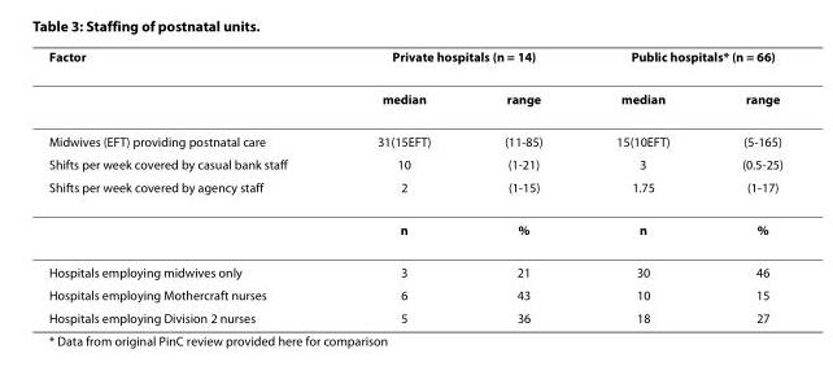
<table><thead><tr><td rowspan="2">Factor</td><td colspan="2">Private hospitals (n = 14)</td><td colspan="2">Public hospitals* (n = 66)</td></tr><tr><td>median</td><td>range</td><td>median</td><td>range</td></tr></thead><tbody><tr><td>Midwives (EFT) providing postnatal care</td><td>31(15EFT)</td><td>(11-85)</td><td>15(10EFT)</td><td>(5-165)</td></tr><tr><td>Shifts per week covered by casual bank staff</td><td>10</td><td>(1-21)</td><td>3</td><td>(0.5-25)</td></tr><tr><td rowspan="2">Shifts per week covered by agency staff</td><td>2</td><td>(1-15)</td><td>1.75</td><td>(1-17)</td></tr><tr><td>n</td><td>%</td><td>n</td><td>%</td></tr><tr><td>Hospitals employing midwives only</td><td>3</td><td>21</td><td>30</td><td>46</td></tr><tr><td>Hospitals employing Mothercraft nurses</td><td>6</td><td>43</td><td>10</td><td>15</td></tr><tr><td>Hospitals employing Division 2 nurses</td><td>5</td><td>36</td><td>18</td><td>27</td></tr></tbody></table>